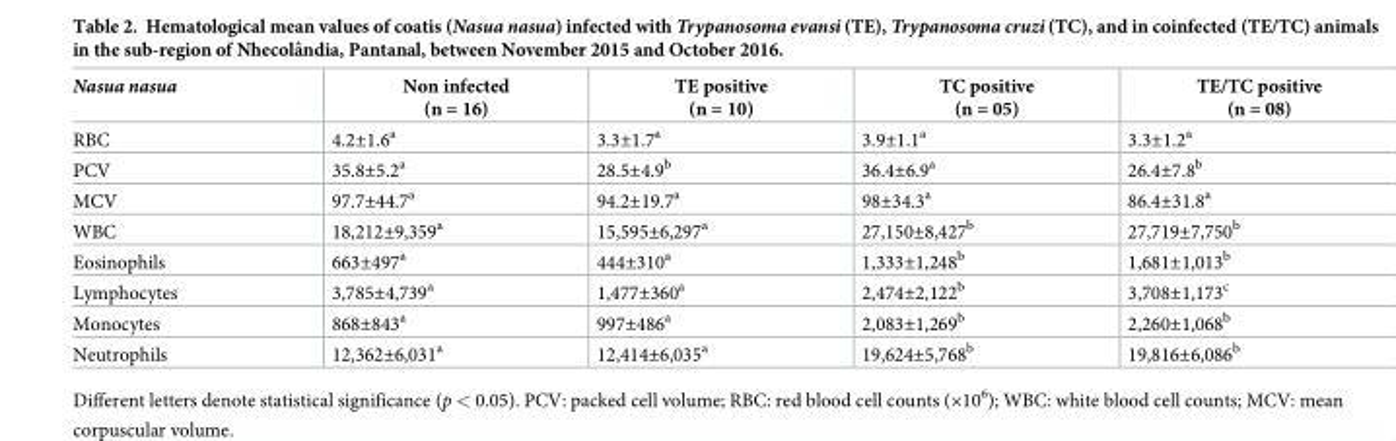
<table><thead><tr><td>Nasua nasua</td><td>Non infected (n = 16)</td><td>TE positive (n = 10)</td><td>TC positive (n = 05)</td><td>TE/TC positive (n = 08)</td></tr></thead><tbody><tr><td>RBC</td><td>4.2±1.6<sup>a</sup></td><td>3.3±1.7<sup>a</sup></td><td>3.9±1.1<sup>a</sup></td><td>3.3±1.2<sup>a</sup></td></tr><tr><td>PCV</td><td>35.8±5.2<sup>a</sup></td><td>28.5±4.9<sup>b</sup></td><td>36.4±6.9<sup>a</sup></td><td>26.4±7.8<sup>b</sup></td></tr><tr><td>MCV</td><td>97.7±44.7<sup>a</sup></td><td>94.2±19.7<sup>a</sup></td><td>98±34.3<sup>a</sup></td><td>86.4±31.8<sup>a</sup></td></tr><tr><td>WBC</td><td>18,212±9,359<sup>a</sup></td><td>15,595±6,297<sup>a</sup></td><td>27,150±8,427<sup>b</sup></td><td>27,719±7,750<sup>b</sup></td></tr><tr><td>Eosinophils</td><td>663±497<sup>a</sup></td><td>444±310<sup>a</sup></td><td>1,333±1,248<sup>b</sup></td><td>1,681±1,013<sup>b</sup></td></tr><tr><td>Lymphocytes</td><td>3,785±4,739<sup>a</sup></td><td>1,477±360<sup>a</sup></td><td>2,474±2,122<sup>b</sup></td><td>3,708±1,173<sup>c</sup></td></tr><tr><td>Monocytes</td><td>868±843<sup>a</sup></td><td>997±486<sup>a</sup></td><td>2,083±1,269<sup>b</sup></td><td>2,260±1,068<sup>b</sup></td></tr><tr><td>Neutrophils</td><td>12,362±6,031<sup>a</sup></td><td>12,414±6,035<sup>a</sup></td><td>19,624±5,768<sup>b</sup></td><td>19,816±6,086<sup>b</sup></td></tr></tbody></table>